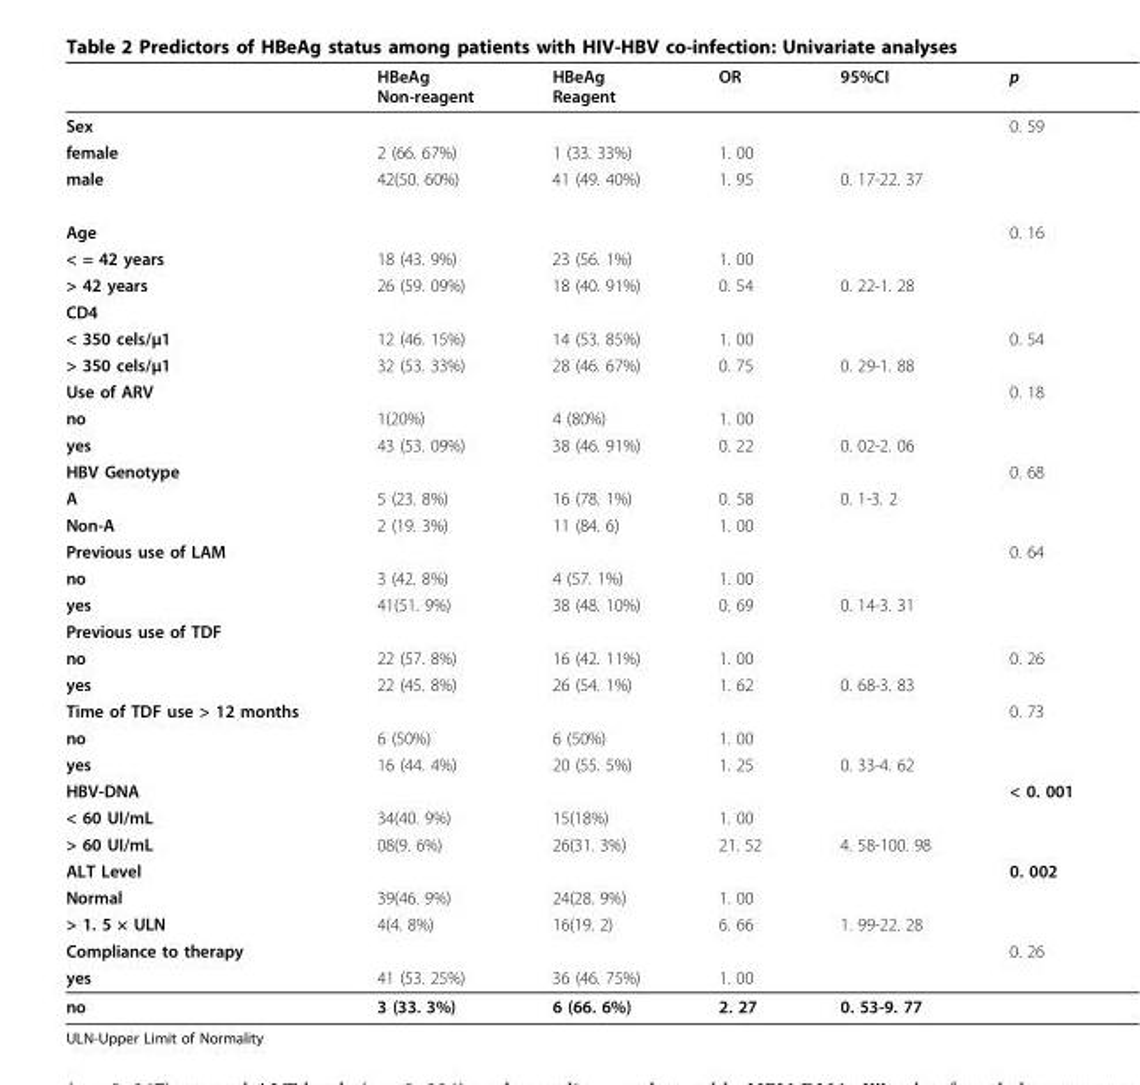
<table><thead><tr><td></td><td>HBeAg Non-reagent</td><td>HBeAg Reagent</td><td>OR</td><td>95%CI</td><td>p</td></tr></thead><tbody><tr><td>Sex</td><td></td><td></td><td></td><td></td><td>0. 59</td></tr><tr><td>female</td><td>2 (66. 67%)</td><td>1 (33. 33%)</td><td>1. 00</td><td></td><td></td></tr><tr><td>male</td><td>42(50. 60%)</td><td>41 (49. 40%)</td><td>1. 95</td><td>0. 17-22. 37</td><td></td></tr><tr><td>Age</td><td></td><td></td><td></td><td></td><td>0. 16</td></tr><tr><td>&lt; = 42 years</td><td>18 (43. 9%)</td><td>23 (56. 1%)</td><td>1. 00</td><td></td><td></td></tr><tr><td>&gt; 42 years</td><td>26 (59. 09%)</td><td>18 (40. 91%)</td><td>0. 54</td><td>0. 22-1. 28</td><td></td></tr><tr><td colspan="6">CD4</td></tr><tr><td>&lt; 350 cels/μ1</td><td>12 (46. 15%)</td><td>14 (53. 85%)</td><td>1. 00</td><td></td><td>0. 54</td></tr><tr><td>&gt; 350 cels/μ1</td><td>32 (53. 33%)</td><td>28 (46. 67%)</td><td>0. 75</td><td>0. 29-1. 88</td><td></td></tr><tr><td>Use of ARV</td><td></td><td></td><td></td><td></td><td>0. 18</td></tr><tr><td>no</td><td>1(20%)</td><td>4 (80%)</td><td>1. 00</td><td></td><td></td></tr><tr><td>yes</td><td>43 (53. 09%)</td><td>38 (46. 91%)</td><td>0. 22</td><td>0. 02-2. 06</td><td></td></tr><tr><td>HBV Genotype</td><td></td><td></td><td></td><td></td><td>0. 68</td></tr><tr><td>A</td><td>5 (23. 8%)</td><td>16 (78. 1%)</td><td>0. 58</td><td>0. 1-3. 2</td><td></td></tr><tr><td>Non-A</td><td>2 (19. 3%)</td><td>11 (84. 6)</td><td>1. 00</td><td></td><td></td></tr><tr><td>Previous use of LAM</td><td></td><td></td><td></td><td></td><td>0. 64</td></tr><tr><td>no</td><td>3 (42. 8%)</td><td>4 (57. 1%)</td><td>1. 00</td><td></td><td></td></tr><tr><td>yes</td><td>41(51. 9%)</td><td>38 (48. 10%)</td><td>0. 69</td><td>0. 14-3. 31</td><td></td></tr><tr><td colspan="6">Previous use of TDF</td></tr><tr><td>no</td><td>22 (57. 8%)</td><td>16 (42. 11%)</td><td>1. 00</td><td></td><td>0. 26</td></tr><tr><td>yes</td><td>22 (45. 8%)</td><td>26 (54. 1%)</td><td>1. 62</td><td>0. 68-3. 83</td><td></td></tr><tr><td>Time of TDF use &gt; 12 months</td><td></td><td></td><td></td><td></td><td>0. 73</td></tr><tr><td>no</td><td>6 (50%)</td><td>6 (50%)</td><td>1. 00</td><td></td><td></td></tr><tr><td>yes</td><td>16 (44. 4%)</td><td>20 (55. 5%)</td><td>1. 25</td><td>0. 33-4. 62</td><td></td></tr><tr><td>HBV-DNA</td><td></td><td></td><td></td><td></td><td>&lt; 0. 001</td></tr><tr><td>&lt; 60 UI/mL</td><td>34(40. 9%)</td><td>15(18%)</td><td>1. 00</td><td></td><td></td></tr><tr><td>&gt; 60 UI/mL</td><td>08(9. 6%)</td><td>26(31. 3%)</td><td>21. 52</td><td>4. 58-100. 98</td><td></td></tr><tr><td>ALT Level</td><td></td><td></td><td></td><td></td><td>0. 002</td></tr><tr><td>Normal</td><td>39(46. 9%)</td><td>24(28. 9%)</td><td>1. 00</td><td></td><td></td></tr><tr><td>&gt; 1. 5 × ULN</td><td>4(4. 8%)</td><td>16(19. 2)</td><td>6. 66</td><td>1. 99-22. 28</td><td></td></tr><tr><td>Compliance to therapy</td><td></td><td></td><td></td><td></td><td>0. 26</td></tr><tr><td>yes</td><td>41 (53. 25%)</td><td>36 (46. 75%)</td><td>1. 00</td><td></td><td></td></tr><tr><td>no</td><td>3 (33. 3%)</td><td>6 (66. 6%)</td><td>2. 27</td><td>0. 53-9. 77</td><td></td></tr></tbody></table>